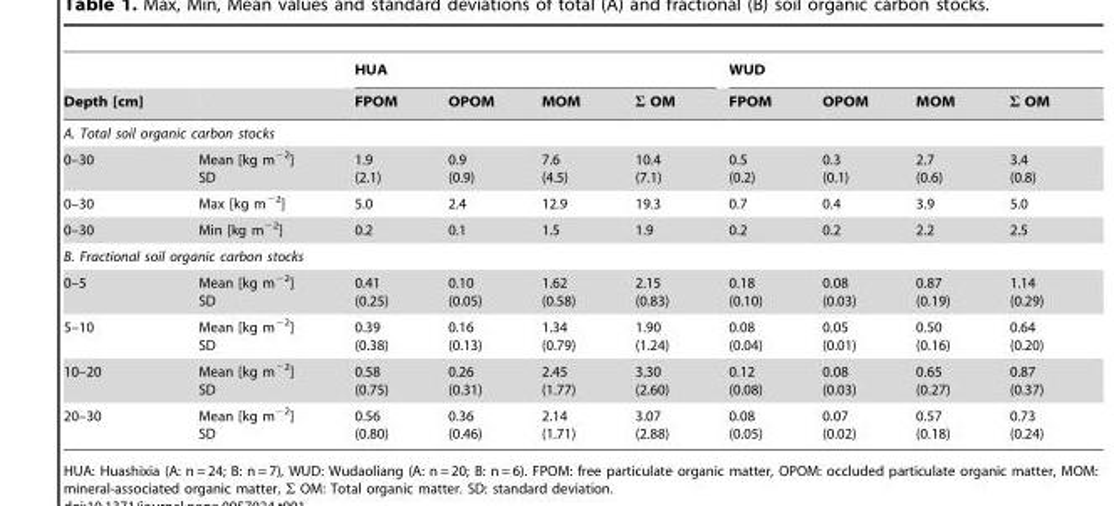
<table><thead><tr><td rowspan="2">Depth [cm]</td><td rowspan="2"></td><td colspan="4">HUA</td><td colspan="4">WUD</td></tr><tr><td>FPOM</td><td>OPOM</td><td>MOM</td><td>Σ OM</td><td>FPOM</td><td>OPOM</td><td>MOM</td><td>Σ OM</td></tr></thead><tbody><tr><td colspan="10">A. Total soil organic carbon stocks</td></tr><tr><td>0–30</td><td>Mean [kg m<sup>−2</sup>] SD</td><td>1.9 (2.1)</td><td>0.9 (0.9)</td><td>7.6 (4.5)</td><td>10.4 (7.1)</td><td>0.5 (0.2)</td><td>0.3 (0.1)</td><td>2.7 (0.6)</td><td>3.4 (0.8)</td></tr><tr><td>0–30</td><td>Max [kg m<sup>−2</sup>]</td><td>5.0</td><td>2.4</td><td>12.9</td><td>19.3</td><td>0.7</td><td>0.4</td><td>3.9</td><td>5.0</td></tr><tr><td>0–30</td><td>Min [kg m<sup>−2</sup>]</td><td>0.2</td><td>0.1</td><td>1.5</td><td>1.9</td><td>0.2</td><td>0.2</td><td>2.2</td><td>2.5</td></tr><tr><td colspan="10">B. Fractional soil organic carbon stocks</td></tr><tr><td>0–5</td><td>Mean [kg m<sup>−2</sup>] SD</td><td>0.41 (0.25)</td><td>0.10 (0.05)</td><td>1.62 (0.58)</td><td>2.15 (0.83)</td><td>0.18 (0.10)</td><td>0.08 (0.03)</td><td>0.87 (0.19)</td><td>1.14 (0.29)</td></tr><tr><td>5–10</td><td>Mean [kg m<sup>−2</sup>] SD</td><td>0.39 (0.38)</td><td>0.16 (0.13)</td><td>1.34 (0.79)</td><td>1.90 (1.24)</td><td>0.08 (0.04)</td><td>0.05 (0.01)</td><td>0.50 (0.16)</td><td>0.64 (0.20)</td></tr><tr><td>10–20</td><td>Mean [kg m<sup>−2</sup>] SD</td><td>0.58 (0.75)</td><td>0.26 (0.31)</td><td>2.45 (1.77)</td><td>3.30 (2.60)</td><td>0.12 (0.08)</td><td>0.08 (0.03)</td><td>0.65 (0.27)</td><td>0.87 (0.37)</td></tr><tr><td>20–30</td><td>Mean [kg m<sup>−2</sup>] SD</td><td>0.56 (0.80)</td><td>0.36 (0.46)</td><td>2.14 (1.71)</td><td>3.07 (2.88)</td><td>0.08 (0.05)</td><td>0.07 (0.02)</td><td>0.57 (0.18)</td><td>0.73 (0.24)</td></tr></tbody></table>